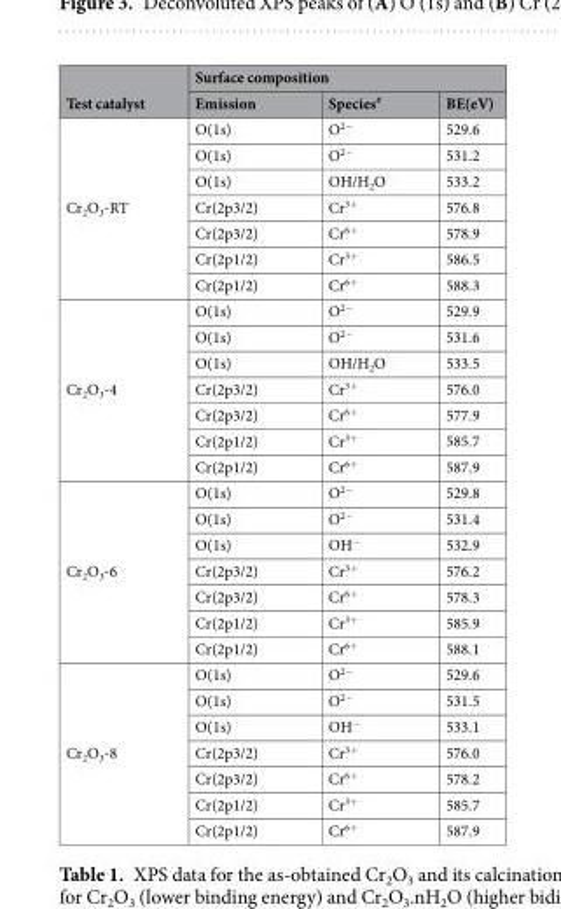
<table><thead><tr><td rowspan="2">Test catalyst</td><td colspan="3">Surface composition</td></tr><tr><td>Emission</td><td>Species<sup>#</sup></td><td>BE(eV)</td></tr></thead><tbody><tr><td rowspan="7">Cr<sub>2</sub>O<sub>3</sub>-RT</td><td>O(1s)</td><td>O<sup>2−</sup></td><td>529.6</td></tr><tr><td>O(1s)</td><td>O<sup>2−</sup></td><td>531.2</td></tr><tr><td>O(1s)</td><td>OH/H<sub>2</sub>O</td><td>533.2</td></tr><tr><td>Cr(2p3/2)</td><td>Cr<sup>3+</sup></td><td>576.8</td></tr><tr><td>Cr(2p3/2)</td><td>Cr<sup>6+</sup></td><td>578.9</td></tr><tr><td>Cr(2p1/2)</td><td>Cr<sup>3+</sup></td><td>586.5</td></tr><tr><td>Cr(2p1/2)</td><td>Cr<sup>6+</sup></td><td>588.3</td></tr><tr><td rowspan="7">Cr<sub>2</sub>O<sub>3</sub>-4</td><td>O(1s)</td><td>O<sup>2−</sup></td><td>529.9</td></tr><tr><td>O(1s)</td><td>O<sup>2−</sup></td><td>531.6</td></tr><tr><td>O(1s)</td><td>OH/H<sub>2</sub>O</td><td>533.5</td></tr><tr><td>Cr(2p3/2)</td><td>Cr<sup>3+</sup></td><td>576.0</td></tr><tr><td>Cr(2p3/2)</td><td>Cr<sup>6+</sup></td><td>577.9</td></tr><tr><td>Cr(2p1/2)</td><td>Cr<sup>3+</sup></td><td>585.7</td></tr><tr><td>Cr(2p1/2)</td><td>Cr<sup>6+</sup></td><td>587.9</td></tr><tr><td rowspan="7">Cr<sub>2</sub>O<sub>3</sub>-6</td><td>O(1s)</td><td>O<sup>2−</sup></td><td>529.8</td></tr><tr><td>O(1s)</td><td>O<sup>2−</sup></td><td>531.4</td></tr><tr><td>O(1s)</td><td>OH<sup>−</sup></td><td>532.9</td></tr><tr><td>Cr(2p3/2)</td><td>Cr<sup>3+</sup></td><td>576.2</td></tr><tr><td>Cr(2p3/2)</td><td>Cr<sup>6+</sup></td><td>578.3</td></tr><tr><td>Cr(2p1/2)</td><td>Cr<sup>3+</sup></td><td>585.9</td></tr><tr><td>Cr(2p1/2)</td><td>Cr<sup>6+</sup></td><td>588.1</td></tr><tr><td rowspan="7">Cr<sub>2</sub>O<sub>3</sub>-8</td><td>O(1s)</td><td>O<sup>2−</sup></td><td>529.6</td></tr><tr><td>O(1s)</td><td>O<sup>2−</sup></td><td>531.5</td></tr><tr><td>O(1s)</td><td>OH<sup>−</sup></td><td>533.1</td></tr><tr><td>Cr(2p3/2)</td><td>Cr<sup>3+</sup></td><td>576.0</td></tr><tr><td>Cr(2p3/2)</td><td>Cr<sup>6+</sup></td><td>578.2</td></tr><tr><td>Cr(2p1/2)</td><td>Cr<sup>3+</sup></td><td>585.7</td></tr><tr><td>Cr(2p1/2)</td><td>Cr<sup>6+</sup></td><td>587.9</td></tr></tbody></table>